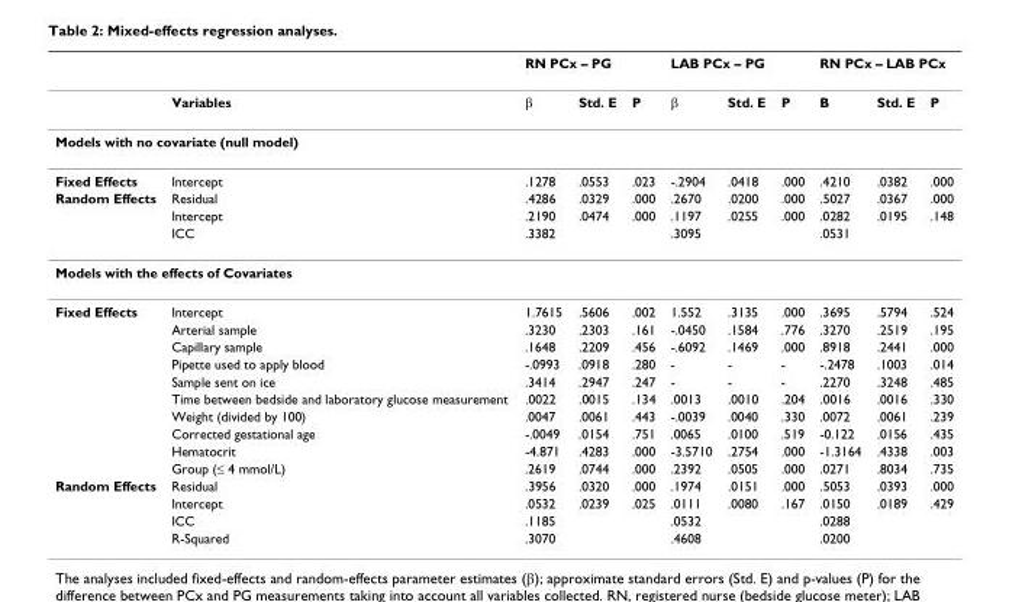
<table><thead><tr><td rowspan="2"></td><td rowspan="2">Variables</td><td colspan="3">RN PCx – PG</td><td colspan="3">LAB PCx – PG</td><td colspan="3">RN PCx – LAB PCx</td></tr><tr><td>β</td><td>Std. E</td><td>P</td><td>β</td><td>Std. E</td><td>P</td><td>B</td><td>Std. E</td><td>P</td></tr></thead><tbody><tr><td colspan="11">Models with no covariate (null model)</td></tr><tr><td>Fixed Effects</td><td>Intercept</td><td>.1278</td><td>.0553</td><td>.023</td><td>-.2904</td><td>.0418</td><td>.000</td><td>.4210</td><td>.0382</td><td>.000</td></tr><tr><td rowspan="3">Random Effects</td><td>Residual</td><td>.4286</td><td>.0329</td><td>.000</td><td>.2670</td><td>.0200</td><td>.000</td><td>.5027</td><td>.0367</td><td>.000</td></tr><tr><td>Intercept</td><td>.2190</td><td>.0474</td><td>.000</td><td>.1197</td><td>.0255</td><td>.000</td><td>.0282</td><td>.0195</td><td>.148</td></tr><tr><td>ICC</td><td>.3382</td><td></td><td></td><td>.3095</td><td></td><td></td><td>.0531</td><td></td><td></td></tr><tr><td colspan="11">Models with the effects of Covariates</td></tr><tr><td rowspan="10">Fixed Effects</td><td>Intercept</td><td>1.7615</td><td>.5606</td><td>.002</td><td>1.552</td><td>.3135</td><td>.000</td><td>.3695</td><td>.5794</td><td>.524</td></tr><tr><td>Arterial sample</td><td>.3230</td><td>.2303</td><td>.161</td><td>-.0450</td><td>.1584</td><td>.776</td><td>.3270</td><td>.2519</td><td>.195</td></tr><tr><td>Capillary sample</td><td>.1648</td><td>.2209</td><td>.456</td><td>-.6092</td><td>.1469</td><td>.000</td><td>.8918</td><td>.2441</td><td>.000</td></tr><tr><td>Pipette used to apply blood</td><td>-.0993</td><td>.0918</td><td>.280</td><td>-</td><td>-</td><td>-</td><td>-.2478</td><td>.1003</td><td>.014</td></tr><tr><td>Sample sent on ice</td><td>.3414</td><td>.2947</td><td>.247</td><td>-</td><td>-</td><td>-</td><td>.2270</td><td>.3248</td><td>.485</td></tr><tr><td>Time between bedside and laboratory glucose measurement</td><td>.0022</td><td>.0015</td><td>.134</td><td>.0013</td><td>.0010</td><td>.204</td><td>.0016</td><td>.0016</td><td>.330</td></tr><tr><td>Weight (divided by 100)</td><td>.0047</td><td>.0061</td><td>.443</td><td>-.0039</td><td>.0040</td><td>.330</td><td>.0072</td><td>.0061</td><td>.239</td></tr><tr><td>Corrected gestational age</td><td>-.0049</td><td>.0154</td><td>.751</td><td>.0065</td><td>.0100</td><td>.519</td><td>-0.122</td><td>.0156</td><td>.435</td></tr><tr><td>Hematocrit</td><td>-4.871</td><td>.4283</td><td>.000</td><td>-3.5710</td><td>.2754</td><td>.000</td><td>-1.3164</td><td>.4338</td><td>.003</td></tr><tr><td>Group (≤ 4 mmol/L)</td><td>.2619</td><td>.0744</td><td>.000</td><td>.2392</td><td>.0505</td><td>.000</td><td>.0271</td><td>.8034</td><td>.735</td></tr><tr><td rowspan="4">Random Effects</td><td>Residual</td><td>.3956</td><td>.0320</td><td>.000</td><td>.1974</td><td>.0151</td><td>.000</td><td>.5053</td><td>.0393</td><td>.000</td></tr><tr><td>Intercept</td><td>.0532</td><td>.0239</td><td>.025</td><td>.0111</td><td>.0080</td><td>.167</td><td>.0150</td><td>.0189</td><td>.429</td></tr><tr><td>ICC</td><td>.1185</td><td></td><td></td><td>.0532</td><td></td><td></td><td>.0288</td><td></td><td></td></tr><tr><td>R-Squared</td><td>.3070</td><td></td><td></td><td>.4608</td><td></td><td></td><td>.0200</td><td></td><td></td></tr></tbody></table>